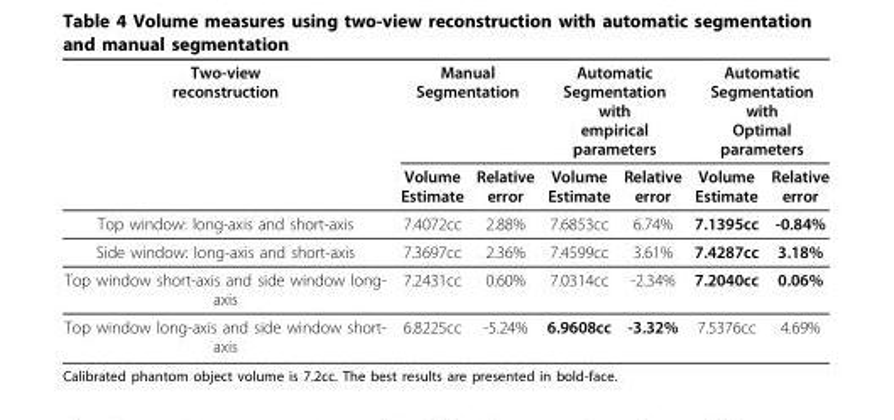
<table><thead><tr><td rowspan="2">Two-view reconstruction</td><td colspan="2">Manual Segmentation</td><td colspan="2">Automatic Segmentation with empirical parameters</td><td colspan="2">Automatic Segmentation with Optimal parameters</td></tr><tr><td>Volume Estimate</td><td>Relative error</td><td>Volume Estimate</td><td>Relative error</td><td>Volume Estimate</td><td>Relative error</td></tr></thead><tbody><tr><td>Top window: long-axis and short-axis</td><td>7.4072cc</td><td>2.88%</td><td>7.6853cc</td><td>6.74%</td><td>7.1395cc</td><td>-0.84%</td></tr><tr><td>Side window: long-axis and short-axis</td><td>7.3697cc</td><td>2.36%</td><td>7.4599cc</td><td>3.61%</td><td>7.4287cc</td><td>3.18%</td></tr><tr><td>Top window short-axis and side window long- axis</td><td>7.2431cc</td><td>0.60%</td><td>7.0314cc</td><td>-2.34%</td><td>7.2040cc</td><td>0.06%</td></tr><tr><td>Top window long-axis and side window short- axis</td><td>6.8225cc</td><td>-5.24%</td><td>6.9608cc</td><td>-3.32%</td><td>7.5376cc</td><td>4.69%</td></tr></tbody></table>